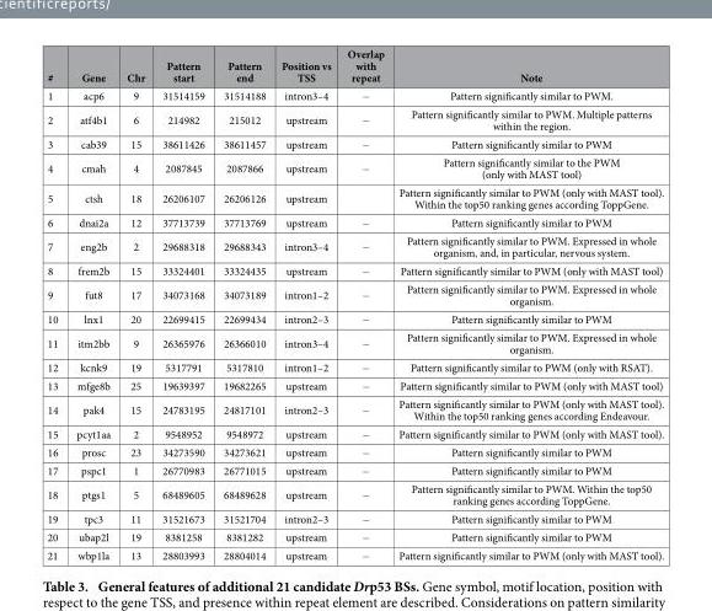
<table><thead><tr><td>#</td><td>Gene</td><td>Chr</td><td>Pattern start</td><td>Pattern end</td><td>Position vs TSS</td><td>Overlap with repeat</td><td>Note</td></tr></thead><tbody><tr><td>1</td><td>acp6</td><td>9</td><td>31514159</td><td>31514188</td><td>intron3–4</td><td>−</td><td>Pattern significantly similar to PWM.</td></tr><tr><td>2</td><td>atf4b1</td><td>6</td><td>214982</td><td>215012</td><td>upstream</td><td>−</td><td>Pattern significantly similar to PWM. Multiple patterns within the region.</td></tr><tr><td>3</td><td>cab39</td><td>15</td><td>38611426</td><td>38611457</td><td>upstream</td><td>−</td><td>Pattern significantly similar to PWM</td></tr><tr><td>4</td><td>cmah</td><td>4</td><td>2087845</td><td>2087866</td><td>upstream</td><td>−</td><td>Pattern significantly similar to the PWM (only with MAST tool)</td></tr><tr><td>5</td><td>ctsh</td><td>18</td><td>26206107</td><td>26206126</td><td>upstream</td><td></td><td>Pattern significantly similar to PWM (only with MAST tool). Within the top50 ranking genes according ToppGene.</td></tr><tr><td>6</td><td>dnai2a</td><td>12</td><td>37713739</td><td>37713769</td><td>upstream</td><td>−</td><td>Pattern significantly similar to PWM</td></tr><tr><td>7</td><td>eng2b</td><td>2</td><td>29688318</td><td>29688343</td><td>intron3–4</td><td>−</td><td>Pattern significantly similar to PWM. Expressed in whole organism, and, in particular, nervous system.</td></tr><tr><td>8</td><td>frem2b</td><td>15</td><td>33324401</td><td>33324435</td><td>upstream</td><td>−</td><td>Pattern significantly similar to PWM (only with MAST tool)</td></tr><tr><td>9</td><td>fut8</td><td>17</td><td>34073168</td><td>34073189</td><td>intron1–2</td><td>−</td><td>Pattern significantly similar to PWM. Expressed in whole organism.</td></tr><tr><td>10</td><td>lnx1</td><td>20</td><td>22699415</td><td>22699434</td><td>intron2–3</td><td>−</td><td>Pattern significantly similar to PWM</td></tr><tr><td>11</td><td>itm2bb</td><td>9</td><td>26365976</td><td>26366010</td><td>intron3–4</td><td>−</td><td>Pattern significantly similar to PWM. Expressed in whole organism.</td></tr><tr><td>12</td><td>kcnk9</td><td>19</td><td>5317791</td><td>5317810</td><td>intron1–2</td><td>−</td><td>Pattern significantly similar to PWM (only with RSAT).</td></tr><tr><td>13</td><td>mfge8b</td><td>25</td><td>19639397</td><td>19682265</td><td>upstream</td><td>−</td><td>Pattern significantly similar to PWM (only with MAST tool)</td></tr><tr><td>14</td><td>pak4</td><td>15</td><td>24783195</td><td>24817101</td><td>intron2–3</td><td>−</td><td>Pattern significantly similar to PWM (only with MAST tool). Within the top50 ranking genes according Endeavour.</td></tr><tr><td>15</td><td>pcyt1aa</td><td>2</td><td>9548952</td><td>9548972</td><td>upstream</td><td>−</td><td>Pattern significantly similar to PWM (only with MAST tool).</td></tr><tr><td>16</td><td>prosc</td><td>23</td><td>34273590</td><td>34273621</td><td>upstream</td><td>−</td><td>Pattern significantly similar to PWM</td></tr><tr><td>17</td><td>pspc1</td><td>1</td><td>26770983</td><td>26771015</td><td>upstream</td><td>−</td><td>Pattern significantly similar to PWM</td></tr><tr><td>18</td><td>ptgs1</td><td>5</td><td>68489605</td><td>68489628</td><td>upstream</td><td>−</td><td>Pattern significantly similar to PWM. Within the top50 ranking genes according ToppGene.</td></tr><tr><td>19</td><td>tpc3</td><td>11</td><td>31521673</td><td>31521704</td><td>intron2–3</td><td>−</td><td>Pattern significantly similar to PWM</td></tr><tr><td>20</td><td>ubap2l</td><td>19</td><td>8381258</td><td>8381282</td><td>upstream</td><td>−</td><td>Pattern significantly similar to PWM</td></tr><tr><td>21</td><td>wbp1la</td><td>13</td><td>28803993</td><td>28804014</td><td>upstream</td><td>−</td><td>Pattern significantly similar to PWM (only with MAST tool).</td></tr></tbody></table>